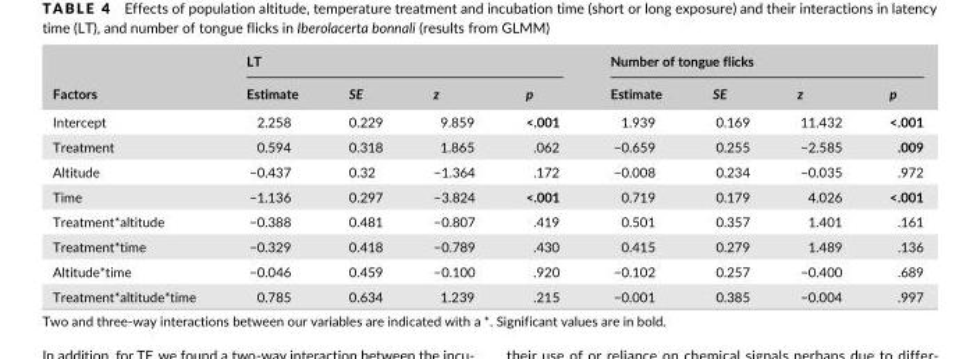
<table><thead><tr><td rowspan="2">Factors</td><td colspan="4">LT</td><td colspan="4">Number of tongue flicks</td></tr><tr><td>Estimate</td><td>SE</td><td>z</td><td>p</td><td>Estimate</td><td>SE</td><td>z</td><td>p</td></tr></thead><tbody><tr><td>Intercept</td><td>2.258</td><td>0.229</td><td>9.859</td><td>&lt;.001</td><td>1.939</td><td>0.169</td><td>11.432</td><td>&lt;.001</td></tr><tr><td>Treatment</td><td>0.594</td><td>0.318</td><td>1.865</td><td>.062</td><td>−0.659</td><td>0.255</td><td>−2.585</td><td>.009</td></tr><tr><td>Altitude</td><td>−0.437</td><td>0.32</td><td>−1.364</td><td>.172</td><td>−0.008</td><td>0.234</td><td>−0.035</td><td>.972</td></tr><tr><td>Time</td><td>−1.136</td><td>0.297</td><td>−3.824</td><td>&lt;.001</td><td>0.719</td><td>0.179</td><td>4.026</td><td>&lt;.001</td></tr><tr><td>Treatment*altitude</td><td>−0.388</td><td>0.481</td><td>−0.807</td><td>.419</td><td>0.501</td><td>0.357</td><td>1.401</td><td>.161</td></tr><tr><td>Treatment*time</td><td>−0.329</td><td>0.418</td><td>−0.789</td><td>.430</td><td>0.415</td><td>0.279</td><td>1.489</td><td>.136</td></tr><tr><td>Altitude*time</td><td>−0.046</td><td>0.459</td><td>−0.100</td><td>.920</td><td>−0.102</td><td>0.257</td><td>−0.400</td><td>.689</td></tr><tr><td>Treatment*altitude*time</td><td>0.785</td><td>0.634</td><td>1.239</td><td>.215</td><td>−0.001</td><td>0.385</td><td>−0.004</td><td>.997</td></tr></tbody></table>